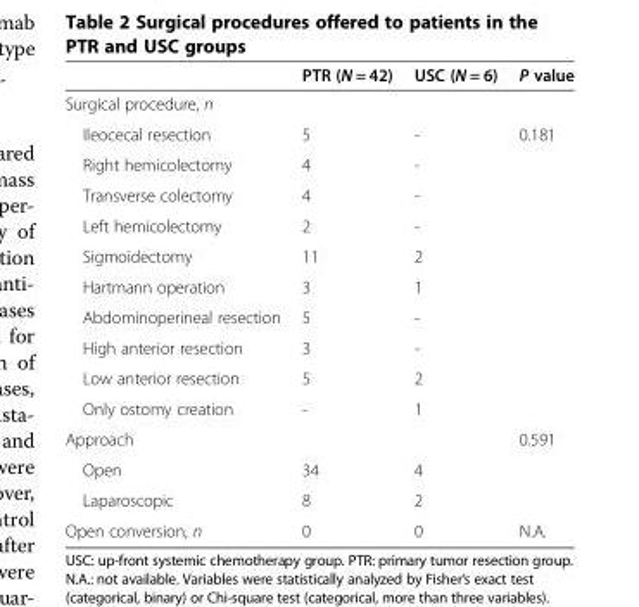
<table><thead><tr><td></td><td>PTR (N = 42)</td><td>USC (N = 6)</td><td>P value</td></tr></thead><tbody><tr><td colspan="4">Surgical procedure, n</td></tr><tr><td>Ileocecal resection</td><td>5</td><td>-</td><td>0.181</td></tr><tr><td>Right hemicolectomy</td><td>4</td><td>-</td><td></td></tr><tr><td>Transverse colectomy</td><td>4</td><td>-</td><td></td></tr><tr><td>Left hemicolectomy</td><td>2</td><td>-</td><td></td></tr><tr><td>Sigmoidectomy</td><td>11</td><td>2</td><td></td></tr><tr><td>Hartmann operation</td><td>3</td><td>1</td><td></td></tr><tr><td>Abdominoperineal resection</td><td>5</td><td>-</td><td></td></tr><tr><td>High anterior resection</td><td>3</td><td>-</td><td></td></tr><tr><td>Low anterior resection</td><td>5</td><td>2</td><td></td></tr><tr><td>Only ostomy creation</td><td>-</td><td>1</td><td></td></tr><tr><td>Approach</td><td></td><td></td><td>0.591</td></tr><tr><td>Open</td><td>34</td><td>4</td><td></td></tr><tr><td>Laparoscopic</td><td>8</td><td>2</td><td></td></tr><tr><td>Open conversion, n</td><td>0</td><td>0</td><td>N.A.</td></tr></tbody></table>